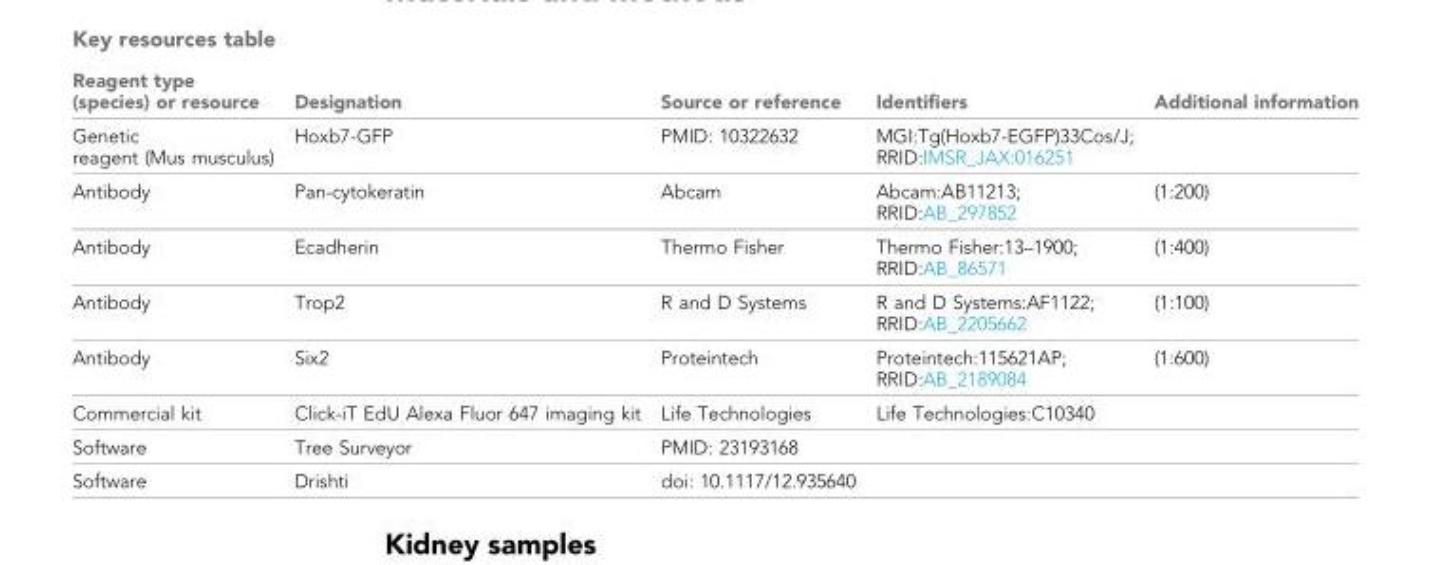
<table><thead><tr><td>Reagent type (species) or resource</td><td>Designation</td><td>Source or reference</td><td>Identifiers</td><td>Additional information</td></tr></thead><tbody><tr><td>Genetic reagent (Mus musculus)</td><td>Hoxb7-GFP</td><td>PMID: 10322632</td><td>MGI:Tg(Hoxb7-EGFP)33Cos/J; RRID:IMSR_JAX:016251</td><td></td></tr><tr><td>Antibody</td><td>Pan-cytokeratin</td><td>Abcam</td><td>Abcam:AB11213; RRID:AB_297852</td><td>(1:200)</td></tr><tr><td>Antibody</td><td>Ecadherin</td><td>Thermo Fisher</td><td>Thermo Fisher:13–1900; RRID:AB_86571</td><td>(1:400)</td></tr><tr><td>Antibody</td><td>Trop2</td><td>R and D Systems</td><td>R and D Systems:AF1122; RRID:AB_2205662</td><td>(1:100)</td></tr><tr><td>Antibody</td><td>Six2</td><td>Proteintech</td><td>Proteintech:115621AP; RRID:AB_2189084</td><td>(1:600)</td></tr><tr><td>Commercial kit</td><td>Click-iT EdU Alexa Fluor 647 imaging kit</td><td>Life Technologies</td><td>Life Technologies:C10340</td><td></td></tr><tr><td>Software</td><td>Tree Surveyor</td><td>PMID: 23193168</td><td></td><td></td></tr><tr><td>Software</td><td>Drishti</td><td>doi: 10.1117/12.935640</td><td></td><td></td></tr></tbody></table>